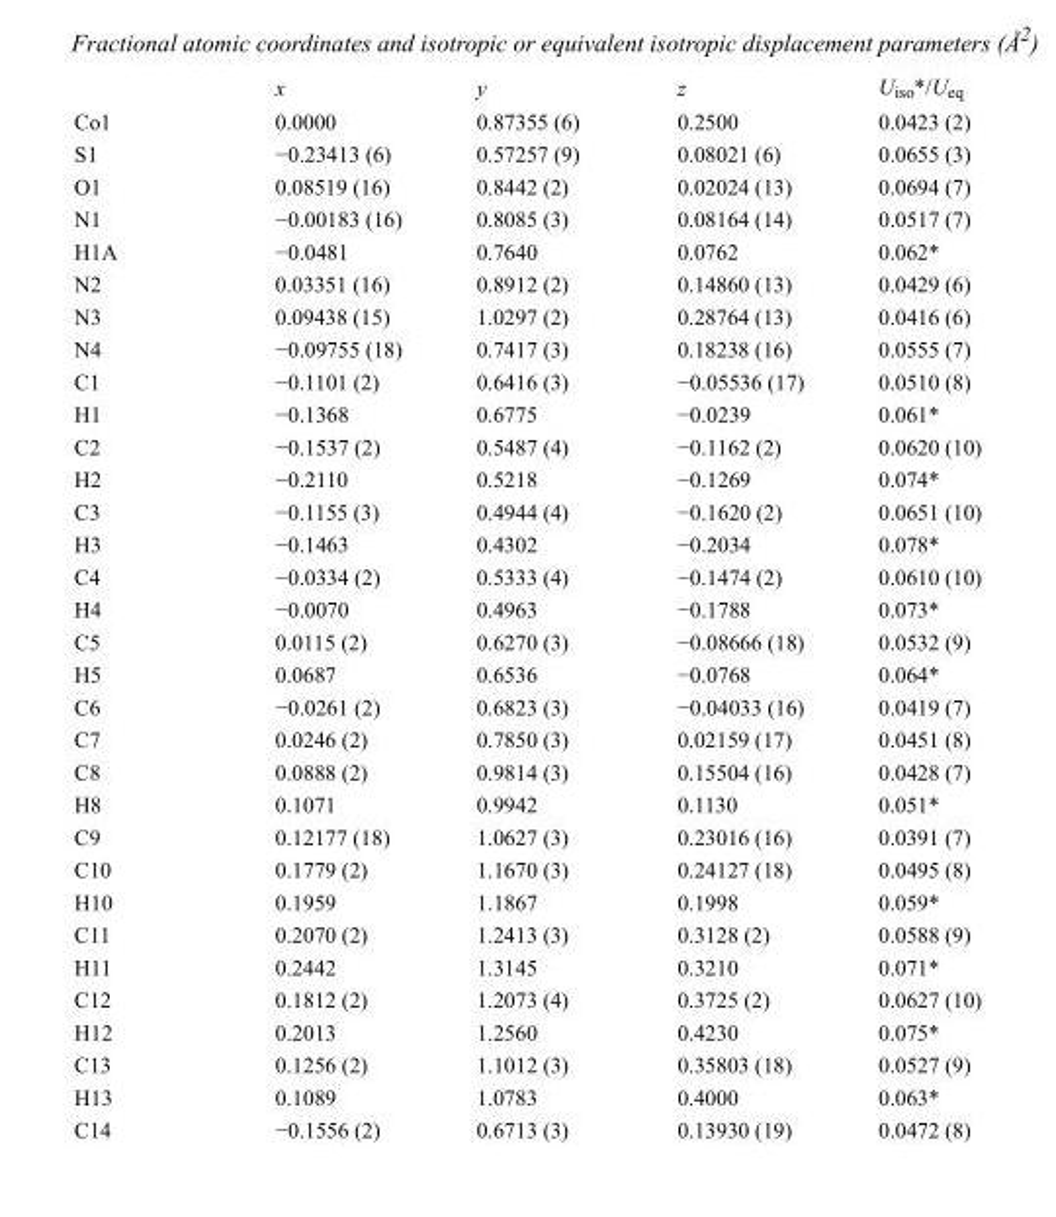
<table><thead><tr><td></td><td>x</td><td>y</td><td>z</td><td>U<sub>iso</sub>*/U<sub>eq</sub></td></tr></thead><tbody><tr><td>Co1</td><td>0.0000</td><td>0.87355 (6)</td><td>0.2500</td><td>0.0423 (2)</td></tr><tr><td>S1</td><td>−0.23413 (6)</td><td>0.57257 (9)</td><td>0.08021 (6)</td><td>0.0655 (3)</td></tr><tr><td>O1</td><td>0.08519 (16)</td><td>0.8442 (2)</td><td>0.02024 (13)</td><td>0.0694 (7)</td></tr><tr><td>N1</td><td>−0.00183 (16)</td><td>0.8085 (3)</td><td>0.08164 (14)</td><td>0.0517 (7)</td></tr><tr><td>H1A</td><td>−0.0481</td><td>0.7640</td><td>0.0762</td><td>0.062*</td></tr><tr><td>N2</td><td>0.03351 (16)</td><td>0.8912 (2)</td><td>0.14860 (13)</td><td>0.0429 (6)</td></tr><tr><td>N3</td><td>0.09438 (15)</td><td>1.0297 (2)</td><td>0.28764 (13)</td><td>0.0416 (6)</td></tr><tr><td>N4</td><td>−0.09755 (18)</td><td>0.7417 (3)</td><td>0.18238 (16)</td><td>0.0555 (7)</td></tr><tr><td>C1</td><td>−0.1101 (2)</td><td>0.6416 (3)</td><td>−0.05536 (17)</td><td>0.0510 (8)</td></tr><tr><td>H1</td><td>−0.1368</td><td>0.6775</td><td>−0.0239</td><td>0.061*</td></tr><tr><td>C2</td><td>−0.1537 (2)</td><td>0.5487 (4)</td><td>−0.1162 (2)</td><td>0.0620 (10)</td></tr><tr><td>H2</td><td>−0.2110</td><td>0.5218</td><td>−0.1269</td><td>0.074*</td></tr><tr><td>C3</td><td>−0.1155 (3)</td><td>0.4944 (4)</td><td>−0.1620 (2)</td><td>0.0651 (10)</td></tr><tr><td>H3</td><td>−0.1463</td><td>0.4302</td><td>−0.2034</td><td>0.078*</td></tr><tr><td>C4</td><td>−0.0334 (2)</td><td>0.5333 (4)</td><td>−0.1474 (2)</td><td>0.0610 (10)</td></tr><tr><td>H4</td><td>−0.0070</td><td>0.4963</td><td>−0.1788</td><td>0.073*</td></tr><tr><td>C5</td><td>0.0115 (2)</td><td>0.6270 (3)</td><td>−0.08666 (18)</td><td>0.0532 (9)</td></tr><tr><td>H5</td><td>0.0687</td><td>0.6536</td><td>−0.0768</td><td>0.064*</td></tr><tr><td>C6</td><td>−0.0261 (2)</td><td>0.6823 (3)</td><td>−0.04033 (16)</td><td>0.0419 (7)</td></tr><tr><td>C7</td><td>0.0246 (2)</td><td>0.7850 (3)</td><td>0.02159 (17)</td><td>0.0451 (8)</td></tr><tr><td>C8</td><td>0.0888 (2)</td><td>0.9814 (3)</td><td>0.15504 (16)</td><td>0.0428 (7)</td></tr><tr><td>H8</td><td>0.1071</td><td>0.9942</td><td>0.1130</td><td>0.051*</td></tr><tr><td>C9</td><td>0.12177 (18)</td><td>1.0627 (3)</td><td>0.23016 (16)</td><td>0.0391 (7)</td></tr><tr><td>C10</td><td>0.1779 (2)</td><td>1.1670 (3)</td><td>0.24127 (18)</td><td>0.0495 (8)</td></tr><tr><td>H10</td><td>0.1959</td><td>1.1867</td><td>0.1998</td><td>0.059*</td></tr><tr><td>C11</td><td>0.2070 (2)</td><td>1.2413 (3)</td><td>0.3128 (2)</td><td>0.0588 (9)</td></tr><tr><td>H11</td><td>0.2442</td><td>1.3145</td><td>0.3210</td><td>0.071*</td></tr><tr><td>C12</td><td>0.1812 (2)</td><td>1.2073 (4)</td><td>0.3725 (2)</td><td>0.0627 (10)</td></tr><tr><td>H12</td><td>0.2013</td><td>1.2560</td><td>0.4230</td><td>0.075*</td></tr><tr><td>C13</td><td>0.1256 (2)</td><td>1.1012 (3)</td><td>0.35803 (18)</td><td>0.0527 (9)</td></tr><tr><td>H13</td><td>0.1089</td><td>1.0783</td><td>0.4000</td><td>0.063*</td></tr><tr><td>C14</td><td>−0.1556 (2)</td><td>0.6713 (3)</td><td>0.13930 (19)</td><td>0.0472 (8)</td></tr></tbody></table>